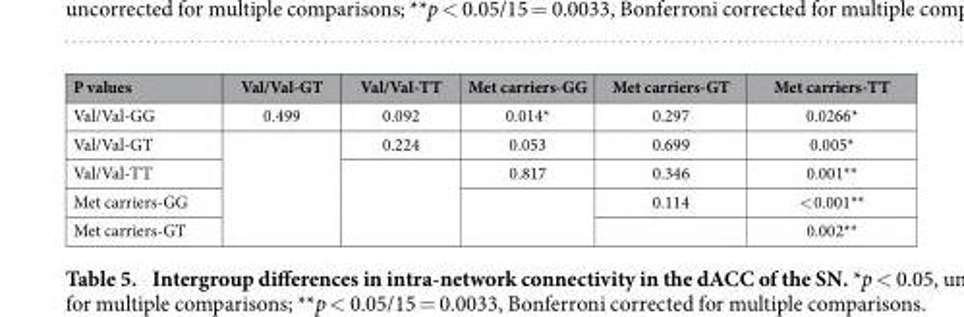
<table><thead><tr><td>P values</td><td>Val/Val-GT</td><td>Val/Val-TT</td><td>Met carriers-GG</td><td>Met carriers-GT</td><td>Met carriers-TT</td></tr></thead><tbody><tr><td>Val/Val-GG</td><td>0.499</td><td>0.092</td><td>0.014*</td><td>0.297</td><td>0.0266*</td></tr><tr><td>Val/Val-GT</td><td rowspan="4"></td><td>0.224</td><td>0.053</td><td>0.699</td><td>0.005*</td></tr><tr><td>Val/Val-TT</td><td rowspan="3"></td><td>0.817</td><td>0.346</td><td>0.001**</td></tr><tr><td>Met carriers-GG</td><td rowspan="2"></td><td>0.114</td><td>&lt; 0.001**</td></tr><tr><td>Met carriers-GT</td><td></td><td>0.002**</td></tr></tbody></table>